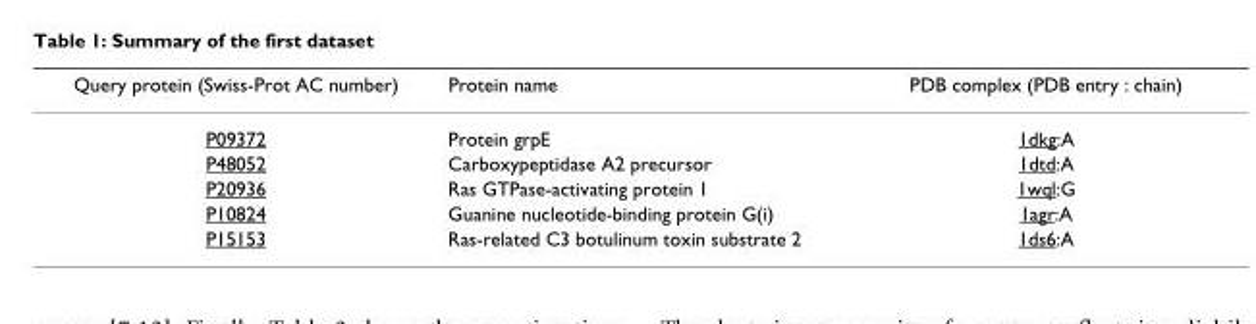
<table><thead><tr><td>Query protein (Swiss-Prot AC number)</td><td>Protein name</td><td>PDB complex (PDB entry : chain)</td></tr></thead><tbody><tr><td>P09372</td><td>Protein grpE</td><td>1dkg:A</td></tr><tr><td>P48052</td><td>Carboxypeptidase A2 precursor</td><td>1dtd:A</td></tr><tr><td>P20936</td><td>Ras GTPase-activating protein 1</td><td>1wql:G</td></tr><tr><td>P10824</td><td>Guanine nucleotide-binding protein G(i)</td><td>1agr:A</td></tr><tr><td>P15153</td><td>Ras-related C3 botulinum toxin substrate 2</td><td>1ds6:A</td></tr></tbody></table>